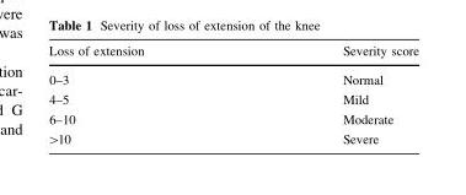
<table><thead><tr><td>Loss of extension</td><td>Severity score</td></tr></thead><tbody><tr><td>0–3</td><td>Normal</td></tr><tr><td>4–5</td><td>Mild</td></tr><tr><td>6–10</td><td>Moderate</td></tr><tr><td>&gt;10</td><td>Severe</td></tr></tbody></table>